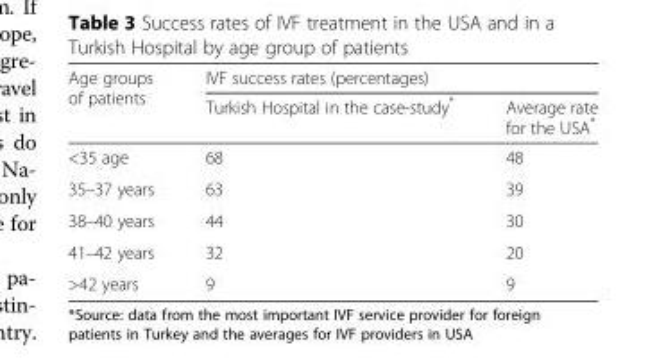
<table><thead><tr><td rowspan="2">Age groups of patients</td><td colspan="2">IVF success rates (percentages)</td></tr><tr><td>Turkish Hospital in the case-study*</td><td>Average rate for the USA*</td></tr></thead><tbody><tr><td>&lt;35 age</td><td>68</td><td>48</td></tr><tr><td>35–37 years</td><td>63</td><td>39</td></tr><tr><td>38–40 years</td><td>44</td><td>30</td></tr><tr><td>41–42 years</td><td>32</td><td>20</td></tr><tr><td>&gt;42 years</td><td>9</td><td>9</td></tr></tbody></table>